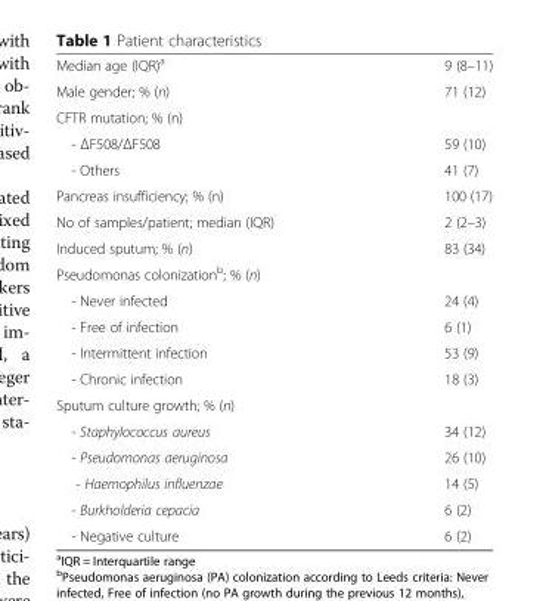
<table><tbody><tr><td>Median age (IQR)<sup>a</sup></td><td>9 (8–11)</td></tr><tr><td>Male gender; % (n)</td><td>71 (12)</td></tr><tr><td colspan="2">CFTR mutation; % (n)</td></tr><tr><td>- ΔF508/ΔF508</td><td>59 (10)</td></tr><tr><td>- Others</td><td>41 (7)</td></tr><tr><td>Pancreas insufficiency; % (n)</td><td>100 (17)</td></tr><tr><td>No of samples/patient; median (IQR)</td><td>2 (2–3)</td></tr><tr><td>Induced sputum; % (n)</td><td>83 (34)</td></tr><tr><td colspan="2">Pseudomonas colonization<sup>b</sup>; % (n)</td></tr><tr><td>- Never infected</td><td>24 (4)</td></tr><tr><td>- Free of infection</td><td>6 (1)</td></tr><tr><td>- Intermittent infection</td><td>53 (9)</td></tr><tr><td>- Chronic infection</td><td>18 (3)</td></tr><tr><td colspan="2">Sputum culture growth; % (n)</td></tr><tr><td>- Staphylococcus aureus</td><td>34 (12)</td></tr><tr><td>- Pseudomonas aeruginosa</td><td>26 (10)</td></tr><tr><td>- Haemophilus influenzae</td><td>14 (5)</td></tr><tr><td>- Burkholderia cepacia</td><td>6 (2)</td></tr><tr><td>- Negative culture</td><td>6 (2)</td></tr></tbody></table>